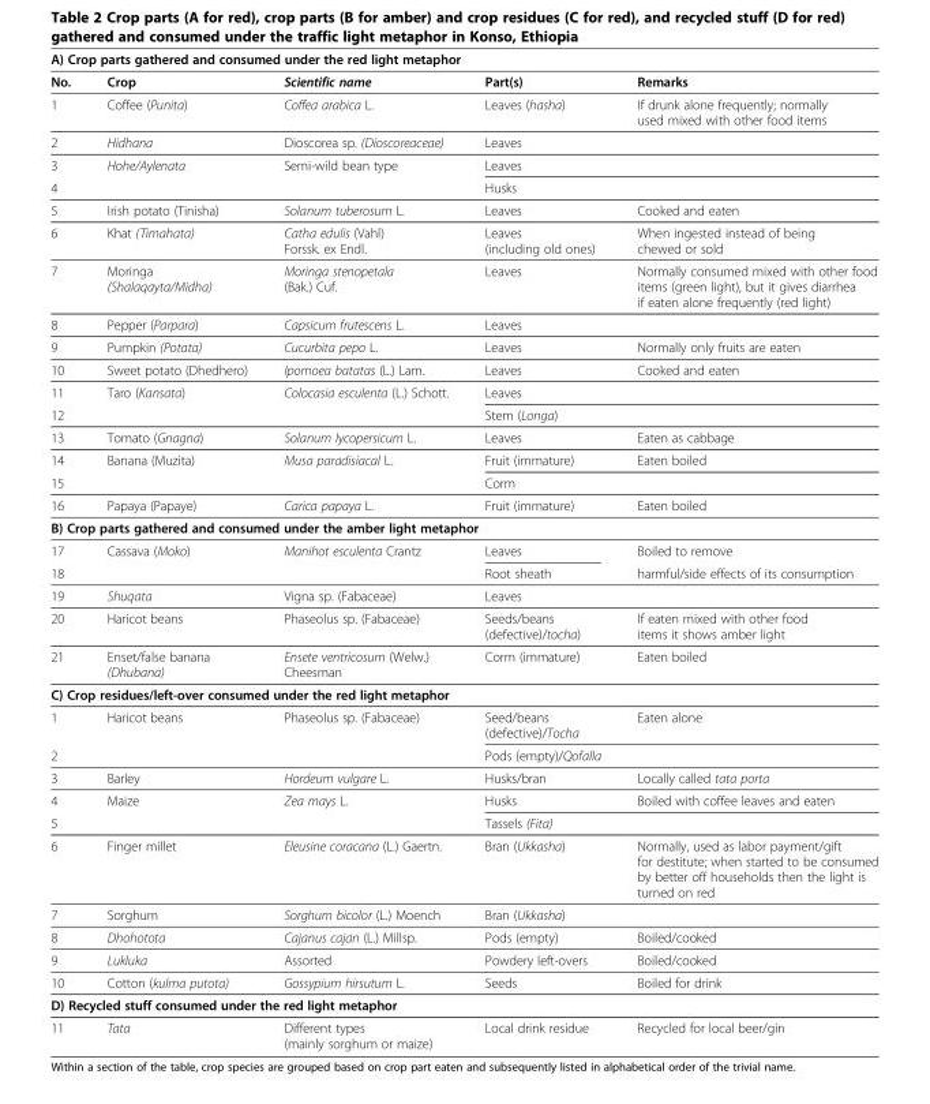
<table><thead><tr><td colspan="5">A) Crop parts gathered and consumed under the red light metaphor</td></tr><tr><td>No.</td><td>Crop</td><td>Scientific name</td><td>Part(s)</td><td>Remarks</td></tr></thead><tbody><tr><td>1</td><td>Coffee (Punita)</td><td>Coffea arabica L.</td><td>Leaves (hasha)</td><td>If drunk alone frequently; normally used mixed with other food items</td></tr><tr><td>2</td><td>Hidhana</td><td>Dioscorea sp. (Dioscoreaceae)</td><td>Leaves</td><td></td></tr><tr><td>3</td><td>Hohe/Aylenata</td><td>Semi-wild bean type</td><td>Leaves</td><td></td></tr><tr><td colspan="3">4</td><td>Husks</td><td></td></tr><tr><td>5</td><td>Irish potato (Tinisha)</td><td>Solanum tuberosum L.</td><td>Leaves</td><td>Cooked and eaten</td></tr><tr><td>6</td><td>Khat (Timahata)</td><td>Catha edulis (Vahl) Forssk. ex Endl.</td><td>Leaves (including old ones)</td><td>When ingested instead of being chewed or sold</td></tr><tr><td>7</td><td>Moringa (Shalaqayta/Midha)</td><td>Moringa stenopetala (Bak.) Cuf.</td><td>Leaves</td><td>Normally consumed mixed with other food items (green light), but it gives diarrhea if eaten alone frequently (red light)</td></tr><tr><td>8</td><td>Pepper (Parpara)</td><td>Capsicum frutescens L.</td><td>Leaves</td><td></td></tr><tr><td>9</td><td>Pumpkin (Potata)</td><td>Cucurbita pepo L.</td><td>Leaves</td><td>Normally only fruits are eaten</td></tr><tr><td>10</td><td>Sweet potato (Dhedhero)</td><td>Ipomoea batatas (L.) Lam.</td><td>Leaves</td><td>Cooked and eaten</td></tr><tr><td>11</td><td>Taro (Kansata)</td><td>Colocasia esculenta (L.) Schott.</td><td>Leaves</td><td></td></tr><tr><td colspan="3">12</td><td>Stem (Longa)</td><td></td></tr><tr><td>13</td><td>Tomato (Gnagna)</td><td>Solanum lycopersicum L.</td><td>Leaves</td><td>Eaten as cabbage</td></tr><tr><td>14</td><td>Banana (Muzita)</td><td>Musa paradisiacal L.</td><td>Fruit (immature)</td><td>Eaten boiled</td></tr><tr><td colspan="3">15</td><td>Corm</td><td></td></tr><tr><td>16</td><td>Papaya (Papaye)</td><td>Carica papaya L.</td><td>Fruit (immature)</td><td>Eaten boiled</td></tr><tr><td colspan="5">B) Crop parts gathered and consumed under the amber light metaphor</td></tr><tr><td>17</td><td>Cassava (Moko)</td><td>Manihot esculenta Crantz</td><td>Leaves</td><td>Boiled to remove</td></tr><tr><td colspan="3">18</td><td>Root sheath</td><td>harmful/side effects of its consumption</td></tr><tr><td>19</td><td>Shuqata</td><td>Vigna sp. (Fabaceae)</td><td>Leaves</td><td></td></tr><tr><td>20</td><td>Haricot beans</td><td>Phaseolus sp. (Fabaceae)</td><td>Seeds/beans (defective)/tocha)</td><td>If eaten mixed with other food items it shows amber light</td></tr><tr><td>21</td><td>Enset/false banana (Dhubana)</td><td>Ensete ventricosum (Welw.) Cheesman</td><td>Corm (immature)</td><td>Eaten boiled</td></tr><tr><td colspan="5">C) Crop residues/left-over consumed under the red light metaphor</td></tr><tr><td>1</td><td>Haricot beans</td><td>Phaseolus sp. (Fabaceae)</td><td>Seed/beans (defective)/Tocha</td><td>Eaten alone</td></tr><tr><td colspan="3">2</td><td>Pods (empty)/Qofalla</td><td></td></tr><tr><td>3</td><td>Barley</td><td>Hordeum vulgare L.</td><td>Husks/bran</td><td>Locally called tata porta</td></tr><tr><td>4</td><td>Maize</td><td>Zea mays L.</td><td>Husks</td><td>Boiled with coffee leaves and eaten</td></tr><tr><td colspan="3">5</td><td>Tassels (Fita)</td><td></td></tr><tr><td>6</td><td>Finger millet</td><td>Eleusine coracana (L.) Gaertn.</td><td>Bran (Ukkasha)</td><td>Normally, used as labor payment/gift for destitute; when started to be consumed by better off households then the light is turned on red</td></tr><tr><td>7</td><td>Sorghum</td><td>Sorghum bicolor (L.) Moench</td><td>Bran (Ukkasha)</td><td></td></tr><tr><td>8</td><td>Dhohotota</td><td>Cajanus cajan (L.) Millsp.</td><td>Pods (empty)</td><td>Boiled/cooked</td></tr><tr><td>9</td><td>Lukluka</td><td>Assorted</td><td>Powdery left-overs</td><td>Boiled/cooked</td></tr><tr><td>10</td><td>Cotton (kulma putota)</td><td>Gossypium hirsutum L.</td><td>Seeds</td><td>Boiled for drink</td></tr><tr><td colspan="5">D) Recycled stuff consumed under the red light metaphor</td></tr><tr><td>11</td><td>Tata</td><td>Different types (mainly sorghum or maize)</td><td>Local drink residue</td><td>Recycled for local beer/gin</td></tr></tbody></table>